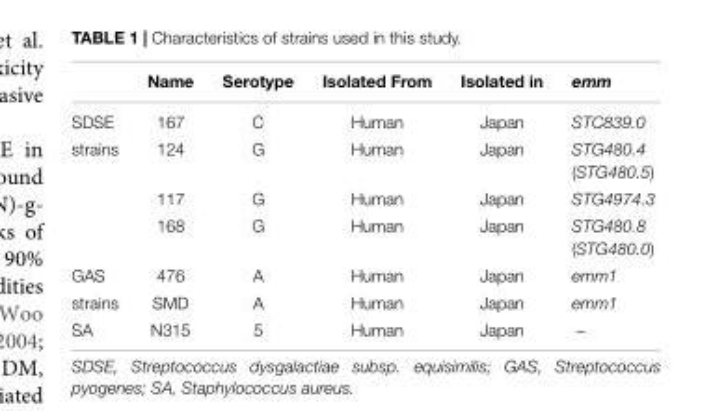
<table><thead><tr><td></td><td>Name</td><td>Serotype</td><td>Isolated From</td><td>Isolated in</td><td>emm</td></tr></thead><tbody><tr><td>SDSE</td><td>167</td><td>C</td><td>Human</td><td>Japan</td><td>STC839.0</td></tr><tr><td rowspan="3">strains</td><td>124</td><td>G</td><td>Human</td><td>Japan</td><td>STG480.4 (STG480.5)</td></tr><tr><td>117</td><td>G</td><td>Human</td><td>Japan</td><td>STG4974.3</td></tr><tr><td>168</td><td>G</td><td>Human</td><td>Japan</td><td>STG480.8 (STG480.0)</td></tr><tr><td>GAS</td><td>476</td><td>A</td><td>Human</td><td>Japan</td><td>emm1</td></tr><tr><td>strains</td><td>SMD</td><td>A</td><td>Human</td><td>Japan</td><td>emm1</td></tr><tr><td>SA</td><td>N315</td><td>5</td><td>Human</td><td>Japan</td><td>–</td></tr></tbody></table>